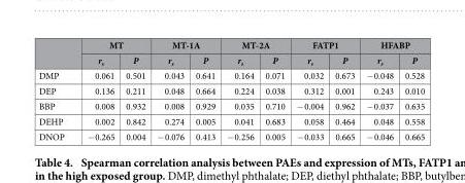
<table><thead><tr><td rowspan="2"></td><td colspan="2">MT</td><td colspan="2">MT-1A</td><td colspan="2">MT-2A</td><td colspan="2">FATP1</td><td colspan="2">HFABP</td></tr><tr><td>r<sub>s</sub></td><td>P</td><td>r<sub>s</sub></td><td>P</td><td>r<sub>s</sub></td><td>P</td><td>r<sub>s</sub></td><td>P</td><td>r<sub>s</sub></td><td>P</td></tr></thead><tbody><tr><td>DMP</td><td>0.061</td><td>0.501</td><td>0.043</td><td>0.641</td><td>0.164</td><td>0.071</td><td>0.032</td><td>0.673</td><td>− 0.048</td><td>0.528</td></tr><tr><td>DEP</td><td>0.136</td><td>0.211</td><td>0.048</td><td>0.664</td><td>0.224</td><td>0.038</td><td>0.312</td><td>0.001</td><td>0.243</td><td>0.010</td></tr><tr><td>BBP</td><td>0.008</td><td>0.932</td><td>0.008</td><td>0.929</td><td>0.035</td><td>0.710</td><td>− 0.004</td><td>0.962</td><td>− 0.037</td><td>0.635</td></tr><tr><td>DEHP</td><td>0.002</td><td>0.842</td><td>0.274</td><td>0.005</td><td>0.041</td><td>0.683</td><td>0.058</td><td>0.464</td><td>0.048</td><td>0.558</td></tr><tr><td>DNOP</td><td>− 0.265</td><td>0.004</td><td>− 0.076</td><td>0.413</td><td>− 0.256</td><td>0.005</td><td>− 0.033</td><td>0.665</td><td>− 0.046</td><td>0.665</td></tr></tbody></table>